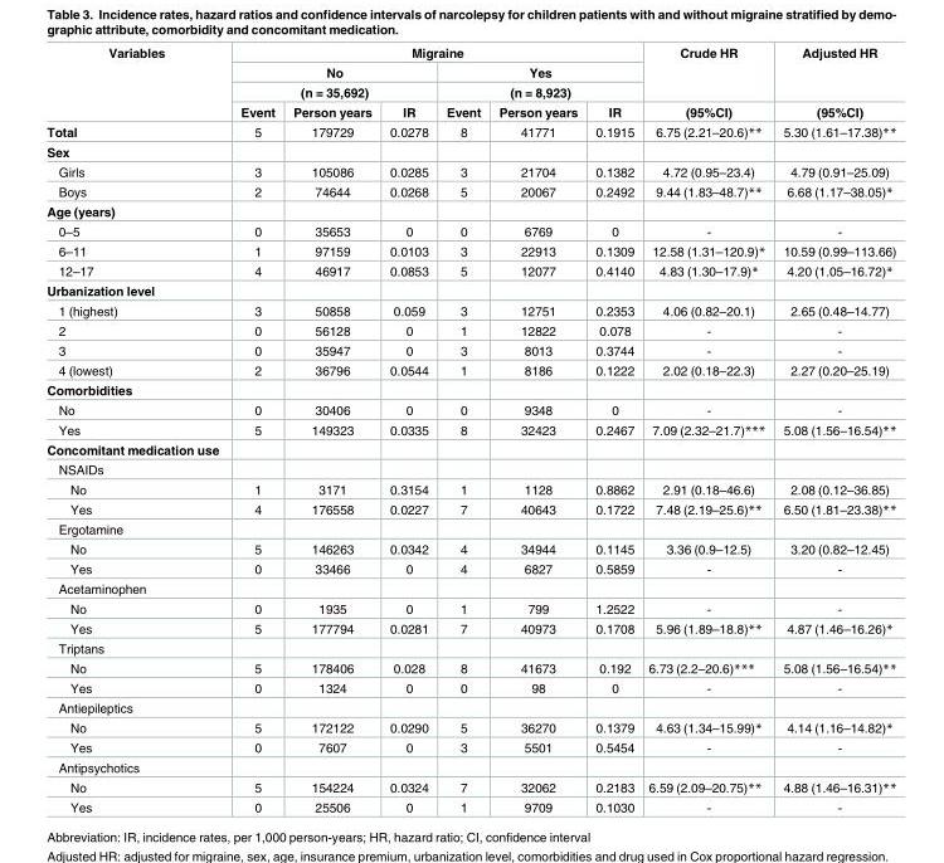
<table><thead><tr><td rowspan="4">Variables</td><td colspan="6">Migraine</td><td rowspan="4">Crude HR (95%CI)</td><td rowspan="4">Adjusted HR (95%CI)</td></tr><tr><td rowspan="2" colspan="3">No (n = 35,692)</td><td rowspan="2" colspan="3">Yes (n = 8,923)</td></tr><tr></tr><tr><td>Event</td><td>Person years</td><td>IR</td><td>Event</td><td>Person years</td><td>IR</td></tr></thead><tbody><tr><td>Total</td><td>5</td><td>179729</td><td>0.0278</td><td>8</td><td>41771</td><td>0.1915</td><td>6.75 (2.21–20.6)**</td><td>5.30 (1.61–17.38)**</td></tr><tr><td colspan="9">Sex</td></tr><tr><td>Girls</td><td>3</td><td>105086</td><td>0.0285</td><td>3</td><td>21704</td><td>0.1382</td><td>4.72 (0.95–23.4)</td><td>4.79 (0.91–25.09)</td></tr><tr><td>Boys</td><td>2</td><td>74644</td><td>0.0268</td><td>5</td><td>20067</td><td>0.2492</td><td>9.44 (1.83–48.7)**</td><td>6.68 (1.17–38.05)*</td></tr><tr><td colspan="9">Age (years)</td></tr><tr><td>0–5</td><td>0</td><td>35653</td><td>0</td><td>0</td><td>6769</td><td>0</td><td>-</td><td>-</td></tr><tr><td>6–11</td><td>1</td><td>97159</td><td>0.0103</td><td>3</td><td>22913</td><td>0.1309</td><td>12.58 (1.31–120.9)*</td><td>10.59 (0.99–113.66)</td></tr><tr><td>12–17</td><td>4</td><td>46917</td><td>0.0853</td><td>5</td><td>12077</td><td>0.4140</td><td>4.83 (1.30–17.9)*</td><td>4.20 (1.05–16.72)*</td></tr><tr><td colspan="9">Urbanization level</td></tr><tr><td>1 (highest)</td><td>3</td><td>50858</td><td>0.059</td><td>3</td><td>12751</td><td>0.2353</td><td>4.06 (0.82–20.1)</td><td>2.65 (0.48–14.77)</td></tr><tr><td>2</td><td>0</td><td>56128</td><td>0</td><td>1</td><td>12822</td><td>0.078</td><td>-</td><td>-</td></tr><tr><td>3</td><td>0</td><td>35947</td><td>0</td><td>3</td><td>8013</td><td>0.3744</td><td>-</td><td>-</td></tr><tr><td>4 (lowest)</td><td>2</td><td>36796</td><td>0.0544</td><td>1</td><td>8186</td><td>0.1222</td><td>2.02 (0.18–22.3)</td><td>2.27 (0.20–25.19)</td></tr><tr><td colspan="9">Comorbidities</td></tr><tr><td>No</td><td>0</td><td>30406</td><td>0</td><td>0</td><td>9348</td><td>0</td><td>-</td><td>-</td></tr><tr><td>Yes</td><td>5</td><td>149323</td><td>0.0335</td><td>8</td><td>32423</td><td>0.2467</td><td>7.09 (2.32–21.7)***</td><td>5.08 (1.56–16.54)**</td></tr><tr><td colspan="9">Concomitant medication use</td></tr><tr><td colspan="9">NSAIDs</td></tr><tr><td>No</td><td>1</td><td>3171</td><td>0.3154</td><td>1</td><td>1128</td><td>0.8862</td><td>2.91 (0.18–46.6)</td><td>2.08 (0.12–36.85)</td></tr><tr><td>Yes</td><td>4</td><td>176558</td><td>0.0227</td><td>7</td><td>40643</td><td>0.1722</td><td>7.48 (2.19–25.6)**</td><td>6.50 (1.81–23.38)**</td></tr><tr><td colspan="9">Ergotamine</td></tr><tr><td>No</td><td>5</td><td>146263</td><td>0.0342</td><td>4</td><td>34944</td><td>0.1145</td><td>3.36 (0.9–12.5)</td><td>3.20 (0.82–12.45)</td></tr><tr><td>Yes</td><td>0</td><td>33466</td><td>0</td><td>4</td><td>6827</td><td>0.5859</td><td>-</td><td>-</td></tr><tr><td colspan="9">Acetaminophen</td></tr><tr><td>No</td><td>0</td><td>1935</td><td>0</td><td>1</td><td>799</td><td>1.2522</td><td>-</td><td>-</td></tr><tr><td>Yes</td><td>5</td><td>177794</td><td>0.0281</td><td>7</td><td>40973</td><td>0.1708</td><td>5.96 (1.89–18.8)**</td><td>4.87 (1.46–16.26)*</td></tr><tr><td colspan="9">Triptans</td></tr><tr><td>No</td><td>5</td><td>178406</td><td>0.028</td><td>8</td><td>41673</td><td>0.192</td><td>6.73 (2.2–20.6)***</td><td>5.08 (1.56–16.54)**</td></tr><tr><td>Yes</td><td>0</td><td>1324</td><td>0</td><td>0</td><td>98</td><td>0</td><td>-</td><td>-</td></tr><tr><td colspan="9">Antiepileptics</td></tr><tr><td>No</td><td>5</td><td>172122</td><td>0.0290</td><td>5</td><td>36270</td><td>0.1379</td><td>4.63 (1.34–15.99)*</td><td>4.14 (1.16–14.82)*</td></tr><tr><td>Yes</td><td>0</td><td>7607</td><td>0</td><td>3</td><td>5501</td><td>0.5454</td><td>-</td><td>-</td></tr><tr><td colspan="9">Antipsychotics</td></tr><tr><td>No</td><td>5</td><td>154224</td><td>0.0324</td><td>7</td><td>32062</td><td>0.2183</td><td>6.59 (2.09–20.75)**</td><td>4.88 (1.46–16.31)**</td></tr><tr><td>Yes</td><td>0</td><td>25506</td><td>0</td><td>1</td><td>9709</td><td>0.1030</td><td>-</td><td>-</td></tr></tbody></table>